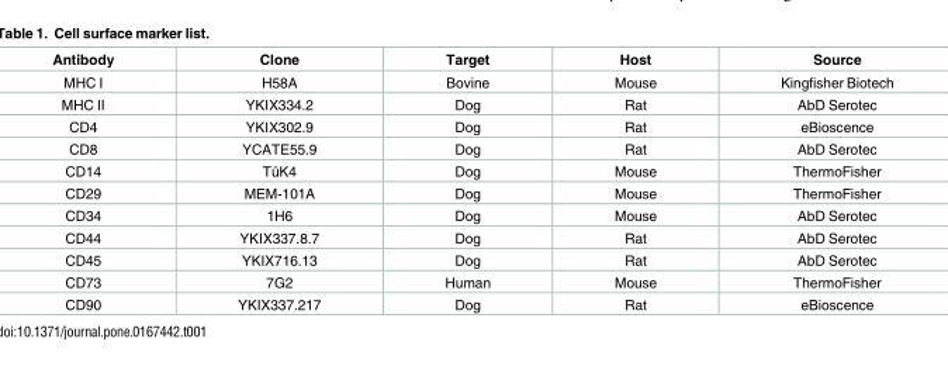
<table><thead><tr><td>Antibody</td><td>Clone</td><td>Target</td><td>Host</td><td>Source</td></tr></thead><tbody><tr><td>MHC I</td><td>H58A</td><td>Bovine</td><td>Mouse</td><td>Kingfisher Biotech</td></tr><tr><td>MHC II</td><td>YKIX334.2</td><td>Dog</td><td>Rat</td><td>AbD Serotec</td></tr><tr><td>CD4</td><td>YKIX302.9</td><td>Dog</td><td>Rat</td><td>eBioscence</td></tr><tr><td>CD8</td><td>YCATE55.9</td><td>Dog</td><td>Rat</td><td>AbD Serotec</td></tr><tr><td>CD14</td><td>Tu¨K4</td><td>Dog</td><td>Mouse</td><td>ThermoFisher</td></tr><tr><td>CD29</td><td>MEM-101A</td><td>Dog</td><td>Mouse</td><td>ThermoFisher</td></tr><tr><td>CD34</td><td>1H6</td><td>Dog</td><td>Mouse</td><td>AbD Serotec</td></tr><tr><td>CD44</td><td>YKIX337.8.7</td><td>Dog</td><td>Rat</td><td>AbD Serotec</td></tr><tr><td>CD45</td><td>YKIX716.13</td><td>Dog</td><td>Rat</td><td>AbD Serotec</td></tr><tr><td>CD73</td><td>7G2</td><td>Human</td><td>Mouse</td><td>ThermoFisher</td></tr><tr><td>CD90</td><td>YKIX337.217</td><td>Dog</td><td>Rat</td><td>eBioscence</td></tr></tbody></table>